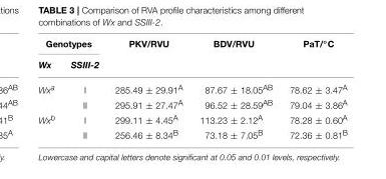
<table><thead><tr><td colspan="2">Genotypes</td><td rowspan="2">PKV/RVU</td><td rowspan="2">BDV/RVU</td><td rowspan="2">PaT/◦C</td></tr><tr><td>Wx</td><td>SSIII-2</td></tr></thead><tbody><tr><td rowspan="2">Wxa</td><td>I</td><td>285.49 ± 29.91<sup>A</sup></td><td>87.67 ± 18.05<sup>AB</sup></td><td>78.62 ± 3.47<sup>A</sup></td></tr><tr><td>II</td><td>295.91 ± 27.47<sup>A</sup></td><td>96.52 ± 28.59<sup>AB</sup></td><td>79.04 ± 3.86<sup>A</sup></td></tr><tr><td rowspan="2">Wxb</td><td>I</td><td>299.11 ± 4.45<sup>A</sup></td><td>113.23 ± 2.12<sup>A</sup></td><td>78.28 ± 0.60<sup>A</sup></td></tr><tr><td>II</td><td>256.46 ± 8.34<sup>B</sup></td><td>73.18 ± 7.05<sup>B</sup></td><td>72.36 ± 0.81<sup>B</sup></td></tr></tbody></table>